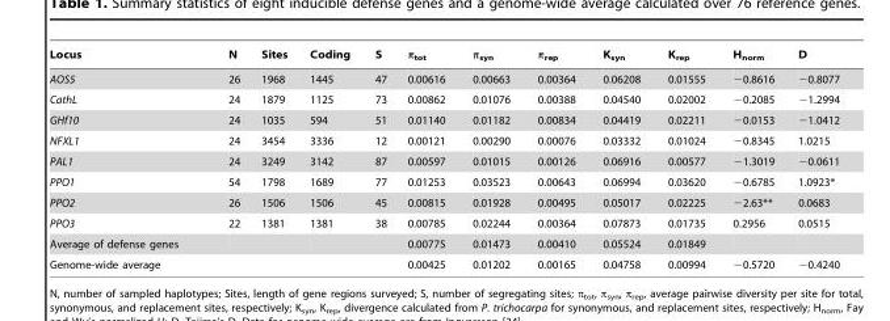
<table><thead><tr><td>Locus</td><td>N</td><td>Sites</td><td>Coding</td><td>S</td><td>π<sub>tot</sub></td><td>π<sub>syn</sub></td><td>π<sub>rep</sub></td><td>K<sub>syn</sub></td><td>K<sub>rep</sub></td><td>H<sub>norm</sub></td><td>D</td></tr></thead><tbody><tr><td>AOS5</td><td>26</td><td>1968</td><td>1445</td><td>47</td><td>0.00616</td><td>0.00663</td><td>0.00364</td><td>0.06208</td><td>0.01555</td><td>−0.8616</td><td>−0.8077</td></tr><tr><td>CathL</td><td>24</td><td>1879</td><td>1125</td><td>73</td><td>0.00862</td><td>0.01076</td><td>0.00388</td><td>0.04540</td><td>0.02002</td><td>−0.2085</td><td>−1.2994</td></tr><tr><td>GHf10</td><td>24</td><td>1035</td><td>594</td><td>51</td><td>0.01140</td><td>0.01182</td><td>0.00834</td><td>0.04419</td><td>0.02211</td><td>−0.0153</td><td>−1.0412</td></tr><tr><td>NFXL1</td><td>24</td><td>3454</td><td>3336</td><td>12</td><td>0.00121</td><td>0.00290</td><td>0.00076</td><td>0.03332</td><td>0.01024</td><td>−0.8345</td><td>1.0215</td></tr><tr><td>PAL1</td><td>24</td><td>3249</td><td>3142</td><td>87</td><td>0.00597</td><td>0.01015</td><td>0.00126</td><td>0.06916</td><td>0.00577</td><td>−1.3019</td><td>−0.0611</td></tr><tr><td>PPO1</td><td>54</td><td>1798</td><td>1689</td><td>77</td><td>0.01253</td><td>0.03523</td><td>0.00643</td><td>0.06994</td><td>0.03620</td><td>−0.6785</td><td>1.0923*</td></tr><tr><td>PPO2</td><td>26</td><td>1506</td><td>1506</td><td>45</td><td>0.00815</td><td>0.01928</td><td>0.00495</td><td>0.05017</td><td>0.02225</td><td>−2.63**</td><td>0.0683</td></tr><tr><td>PPO3</td><td>22</td><td>1381</td><td>1381</td><td>38</td><td>0.00785</td><td>0.02244</td><td>0.00364</td><td>0.07873</td><td>0.01735</td><td>0.2956</td><td>0.0515</td></tr><tr><td>Average of defense genes</td><td></td><td></td><td></td><td></td><td>0.00775</td><td>0.01473</td><td>0.00410</td><td>0.05524</td><td>0.01849</td><td></td><td></td></tr><tr><td>Genome-wide average</td><td></td><td></td><td></td><td></td><td>0.00425</td><td>0.01202</td><td>0.00165</td><td>0.04758</td><td>0.00994</td><td>−0.5720</td><td>−0.4240</td></tr></tbody></table>